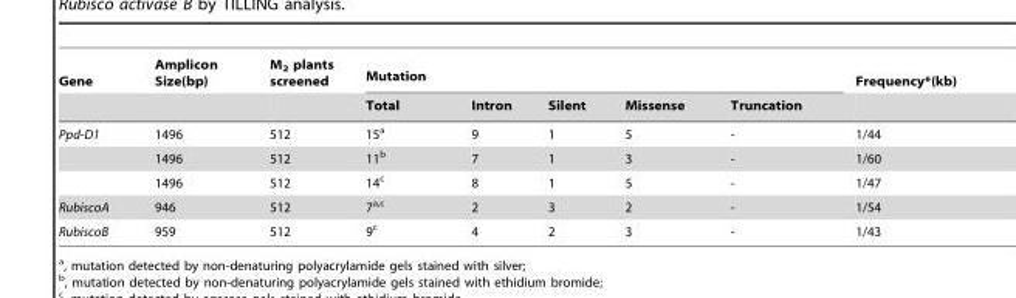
<table><thead><tr><td rowspan="2">Gene</td><td rowspan="2">Amplicon Size(bp)</td><td rowspan="2">M<sub>2</sub> plants screened</td><td colspan="5">Mutation</td><td rowspan="2">Frequency*(kb)</td></tr><tr><td>Total</td><td>Intron</td><td>Silent</td><td>Missense</td><td>Truncation</td></tr></thead><tbody><tr><td rowspan="3">Ppd-D1</td><td>1496</td><td>512</td><td>15<sup>a</sup></td><td>9</td><td>1</td><td>5</td><td>-</td><td>1/44</td></tr><tr><td>1496</td><td>512</td><td>11<sup>b</sup></td><td>7</td><td>1</td><td>3</td><td>-</td><td>1/60</td></tr><tr><td>1496</td><td>512</td><td>14<sup>c</sup></td><td>8</td><td>1</td><td>5</td><td>-</td><td>1/47</td></tr><tr><td>RubiscoA</td><td>946</td><td>512</td><td>7<sup>a,</sup>c</td><td>2</td><td>3</td><td>2</td><td>-</td><td>1/54</td></tr><tr><td>RubiscoB</td><td>959</td><td>512</td><td>9<sup>c</sup></td><td>4</td><td>2</td><td>3</td><td>-</td><td>1/43</td></tr></tbody></table>